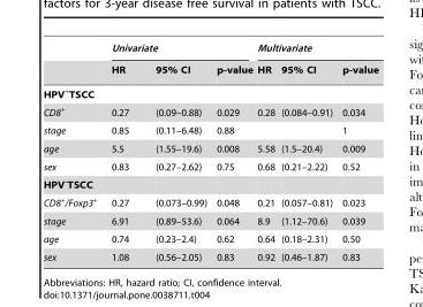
<table><thead><tr><td rowspan="2"></td><td colspan="3">Univariate</td><td colspan="3">Multivariate</td></tr><tr><td>HR</td><td>95% CI</td><td>p-value</td><td>HR</td><td>95% CI</td><td>p-value</td></tr></thead><tbody><tr><td colspan="7">HPV<sup>+</sup>TSCC</td></tr><tr><td>CD8<sup>+</sup></td><td>0.27</td><td>(0.09–0.88)</td><td>0.029</td><td>0.28</td><td>(0.084–0.91)</td><td>0.034</td></tr><tr><td>stage</td><td>0.85</td><td>(0.11–6.48)</td><td>0.88</td><td></td><td></td><td>1</td></tr><tr><td>age</td><td>5.5</td><td>(1.55–19.6)</td><td>0.008</td><td>5.58</td><td>(1.5–20.4)</td><td>0.009</td></tr><tr><td>sex</td><td>0.83</td><td>(0.27–2.62)</td><td>0.75</td><td>0.68</td><td>(0.21–2.22)</td><td>0.52</td></tr><tr><td colspan="7">HPV<sup>-</sup>TSCC</td></tr><tr><td>CD8<sup>+</sup>/Foxp3<sup>+</sup></td><td>0.27</td><td>(0.073–0.99)</td><td>0.048</td><td>0.21</td><td>(0.057–0.81)</td><td>0.023</td></tr><tr><td>stage</td><td>6.91</td><td>(0.89–53.6)</td><td>0.064</td><td>8.9</td><td>(1.12–70.6)</td><td>0.039</td></tr><tr><td>age</td><td>0.74</td><td>(0.23–2.4)</td><td>0.62</td><td>0.64</td><td>(0.18–2.31)</td><td>0.50</td></tr><tr><td>sex</td><td>1.08</td><td>(0.56–2.05)</td><td>0.83</td><td>0.92</td><td>(0.46–1.87)</td><td>0.83</td></tr></tbody></table>